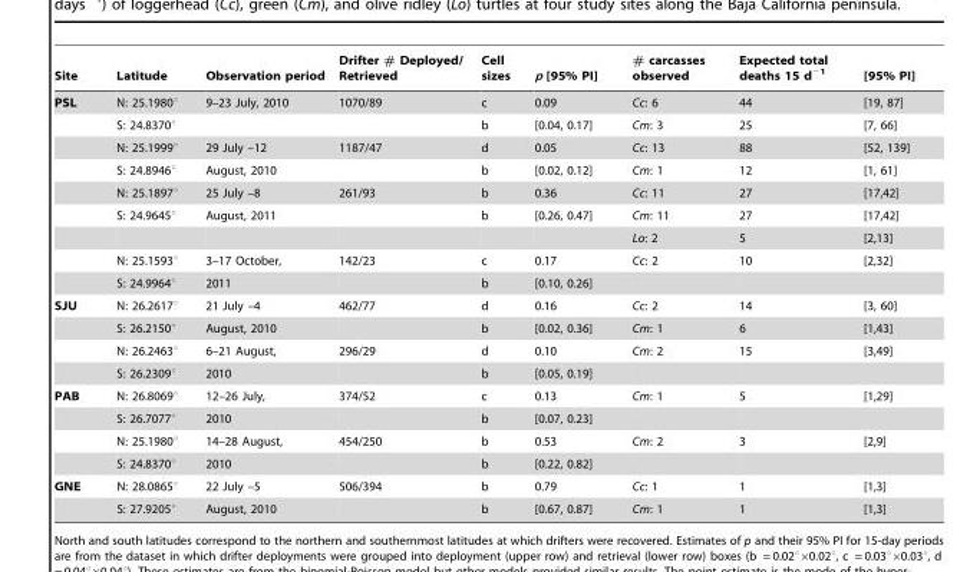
<table><thead><tr><td>Site</td><td>Latitude</td><td>Observation period</td><td>Drifter # Deployed/ Retrieved</td><td>Cell sizes</td><td>p [95% PI]</td><td># carcasses observed</td><td>Expected total deaths 15 d<sup>−1</sup></td><td>[95% PI]</td></tr></thead><tbody><tr><td rowspan="9">PSL</td><td>N: 25.1980°</td><td>9–23 July, 2010</td><td>1070/89</td><td>c</td><td>0.09</td><td>Cc: 6</td><td>44</td><td>[19, 87]</td></tr><tr><td>S: 24.8370°</td><td></td><td></td><td>b</td><td>[0.04, 0.17]</td><td>Cm: 3</td><td>25</td><td>[7, 66]</td></tr><tr><td>N: 25.1999°</td><td>29 July –12</td><td>1187/47</td><td>d</td><td>0.05</td><td>Cc: 13</td><td>88</td><td>[52, 139]</td></tr><tr><td>S: 24.8946°</td><td>August, 2010</td><td></td><td>b</td><td>[0.02, 0.12]</td><td>Cm: 1</td><td>12</td><td>[1, 61]</td></tr><tr><td>N: 25.1897°</td><td>25 July –8</td><td>261/93</td><td>b</td><td>0.36</td><td>Cc: 11</td><td>27</td><td>[17,42]</td></tr><tr><td>S: 24.9645°</td><td>August, 2011</td><td></td><td>b</td><td>[0.26, 0.47]</td><td>Cm: 11</td><td>27</td><td>[17,42]</td></tr><tr><td></td><td></td><td></td><td></td><td></td><td>Lo: 2</td><td>5</td><td>[2,13]</td></tr><tr><td>N: 25.1593°</td><td>3–17 October,</td><td>142/23</td><td>c</td><td>0.17</td><td>Cc: 2</td><td>10</td><td>[2,32]</td></tr><tr><td>S: 24.9964°</td><td>2011</td><td></td><td>b</td><td>[0.10, 0.26]</td><td></td><td></td><td></td></tr><tr><td rowspan="4">SJU</td><td>N: 26.2617°</td><td>21 July –4</td><td>462/77</td><td>d</td><td>0.16</td><td>Cc: 2</td><td>14</td><td>[3, 60]</td></tr><tr><td>S: 26.2150°</td><td>August, 2010</td><td></td><td>b</td><td>[0.02, 0.36]</td><td>Cm: 1</td><td>6</td><td>[1,43]</td></tr><tr><td>N: 26.2463°</td><td>6–21 August,</td><td>296/29</td><td>d</td><td>0.10</td><td>Cm: 2</td><td>15</td><td>[3,49]</td></tr><tr><td>S: 26.2309°</td><td>2010</td><td></td><td>b</td><td>[0.05, 0.19]</td><td></td><td></td><td></td></tr><tr><td rowspan="4">PAB</td><td>N: 26.8069°</td><td>12–26 July,</td><td>374/52</td><td>c</td><td>0.13</td><td>Cm: 1</td><td>5</td><td>[1,29]</td></tr><tr><td>S: 26.7077°</td><td>2010</td><td></td><td>b</td><td>[0.07, 0.23]</td><td></td><td></td><td></td></tr><tr><td>N: 25.1980°</td><td>14–28 August,</td><td>454/250</td><td>b</td><td>0.53</td><td>Cm: 2</td><td>3</td><td>[2,9]</td></tr><tr><td>S: 24.8370°</td><td>2010</td><td></td><td>b</td><td>[0.22, 0.82]</td><td></td><td></td><td></td></tr><tr><td rowspan="2">GNE</td><td>N: 28.0865°</td><td>22 July –5</td><td>506/394</td><td>b</td><td>0.79</td><td>Cc: 1</td><td>1</td><td>[1,3]</td></tr><tr><td>S: 27.9205°</td><td>August, 2010</td><td></td><td>b</td><td>[0.67, 0.87]</td><td>Cm: 1</td><td>1</td><td>[1,3]</td></tr></tbody></table>